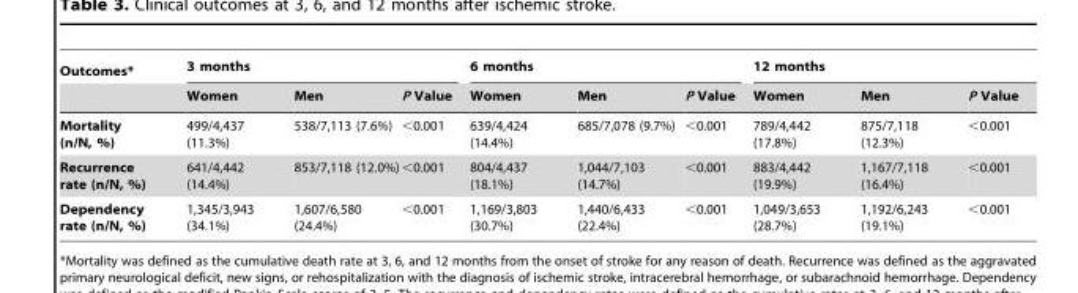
<table><thead><tr><td rowspan="2">Outcomes*</td><td colspan="3">3 months</td><td colspan="3">6 months</td><td colspan="3">12 months</td></tr><tr><td>Women</td><td>Men</td><td>P Value</td><td>Women</td><td>Men</td><td>P Value</td><td>Women</td><td>Men</td><td>P Value</td></tr></thead><tbody><tr><td>Mortality (n/N, %)</td><td>499/4,437 (11.3%)</td><td>538/7,113 (7.6%)</td><td>&lt;0.001</td><td>639/4,424 (14.4%)</td><td>685/7,078 (9.7%)</td><td>&lt;0.001</td><td>789/4,442 (17.8%)</td><td>875/7,118 (12.3%)</td><td>&lt;0.001</td></tr><tr><td>Recurrence rate (n/N, %)</td><td>641/4,442 (14.4%)</td><td>853/7,118 (12.0%)</td><td>&lt;0.001</td><td>804/4,437 (18.1%)</td><td>1,044/7,103 (14.7%)</td><td>&lt;0.001</td><td>883/4,442 (19.9%)</td><td>1,167/7,118 (16.4%)</td><td>&lt;0.001</td></tr><tr><td>Dependency rate (n/N, %)</td><td>1,345/3,943 (34.1%)</td><td>1,607/6,580 (24.4%)</td><td>&lt;0.001</td><td>1,169/3,803 (30.7%)</td><td>1,440/6,433 (22.4%)</td><td>&lt;0.001</td><td>1,049/3,653 (28.7%)</td><td>1,192/6,243 (19.1%)</td><td>&lt;0.001</td></tr></tbody></table>